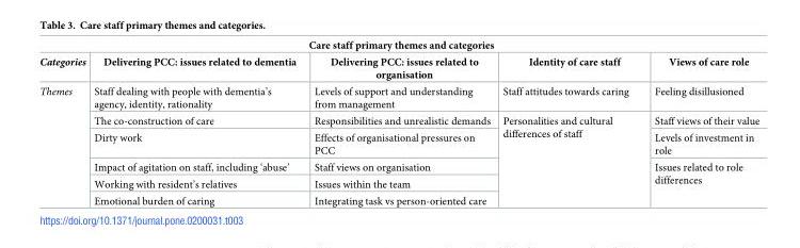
<table><thead><tr><td colspan="5">Care staff primary themes and categories</td></tr><tr><td>Categories</td><td>Delivering PCC: issues related to dementia</td><td>Delivering PCC: issues related to organisation</td><td>Identity of care staff</td><td>Views of care role</td></tr></thead><tbody><tr><td rowspan="6">Themes</td><td>Staff dealing with people with dementia’s agency, identity, rationality</td><td>Levels of support and understanding from management</td><td>Staff attitudes towards caring</td><td>Feeling disillusioned</td></tr><tr><td>The co-construction of care</td><td>Responsibilities and unrealistic demands</td><td rowspan="5">Personalities and cultural differences of staff</td><td>Staff views of their value</td></tr><tr><td>Dirty work</td><td>Effects of organisational pressures on PCC</td><td>Levels of investment in role</td></tr><tr><td>Impact of agitation on staff, including ‘abuse’</td><td>Staff views on organisation</td><td rowspan="3">Issues related to role differences</td></tr><tr><td>Working with resident’s relatives</td><td>Issues within the team</td></tr><tr><td>Emotional burden of caring</td><td>Integrating task vs person-oriented care</td></tr></tbody></table>